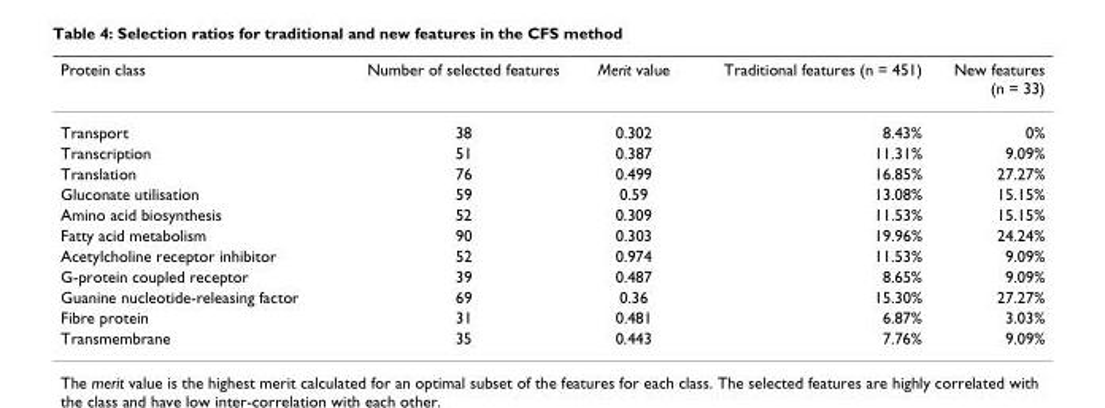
<table><thead><tr><td>Protein class</td><td>Number of selected features</td><td>Merit value</td><td>Traditional features (n = 451)</td><td>New features (n = 33)</td></tr></thead><tbody><tr><td>Transport</td><td>38</td><td>0.302</td><td>8.43%</td><td>0%</td></tr><tr><td>Transcription</td><td>51</td><td>0.387</td><td>11.31%</td><td>9.09%</td></tr><tr><td>Translation</td><td>76</td><td>0.499</td><td>16.85%</td><td>27.27%</td></tr><tr><td>Gluconate utilisation</td><td>59</td><td>0.59</td><td>13.08%</td><td>15.15%</td></tr><tr><td>Amino acid biosynthesis</td><td>52</td><td>0.309</td><td>11.53%</td><td>15.15%</td></tr><tr><td>Fatty acid metabolism</td><td>90</td><td>0.303</td><td>19.96%</td><td>24.24%</td></tr><tr><td>Acetylcholine receptor inhibitor</td><td>52</td><td>0.974</td><td>11.53%</td><td>9.09%</td></tr><tr><td>G-protein coupled receptor</td><td>39</td><td>0.487</td><td>8.65%</td><td>9.09%</td></tr><tr><td>Guanine nucleotide-releasing factor</td><td>69</td><td>0.36</td><td>15.30%</td><td>27.27%</td></tr><tr><td>Fibre protein</td><td>31</td><td>0.481</td><td>6.87%</td><td>3.03%</td></tr><tr><td>Transmembrane</td><td>35</td><td>0.443</td><td>7.76%</td><td>9.09%</td></tr></tbody></table>